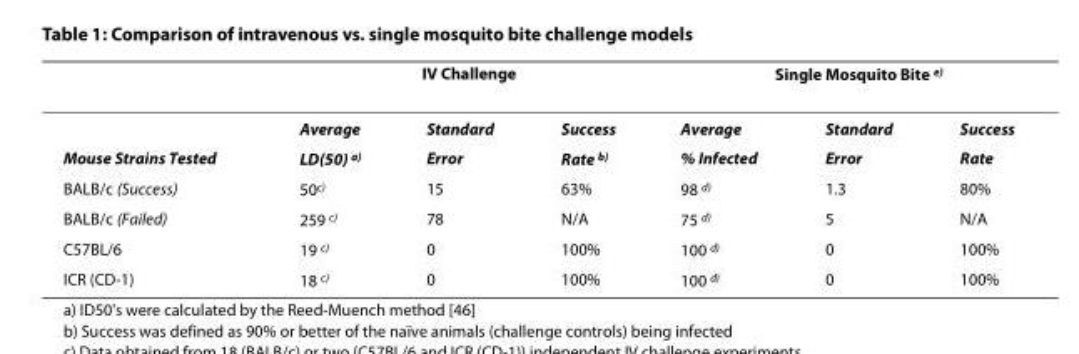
<table><thead><tr><td rowspan="2"></td><td colspan="3">IV Challenge</td><td colspan="3">Single Mosquito Bite <sup>e)</sup></td></tr><tr><td>Average</td><td>Standard</td><td>Success</td><td>Average</td><td>Standard</td><td>Success</td></tr></thead><tbody><tr><td>Mouse Strains Tested</td><td>LD(50) <sup>a)</sup></td><td>Error</td><td>Rate <sup>b)</sup></td><td>% Infected</td><td>Error</td><td>Rate</td></tr><tr><td>BALB/c (Success)</td><td>50<sup>c)</sup></td><td>15</td><td>63%</td><td>98 <sup>d)</sup></td><td>1.3</td><td>80%</td></tr><tr><td>BALB/c (Failed)</td><td>259 <sup>c)</sup></td><td>78</td><td>N/A</td><td>75 <sup>d)</sup></td><td>5</td><td>N/A</td></tr><tr><td>C57BL/6</td><td>19 <sup>c)</sup></td><td>0</td><td>100%</td><td>100 <sup>d)</sup></td><td>0</td><td>100%</td></tr><tr><td>ICR (CD-1)</td><td>18 <sup>c)</sup></td><td>0</td><td>100%</td><td>100 <sup>d)</sup></td><td>0</td><td>100%</td></tr></tbody></table>